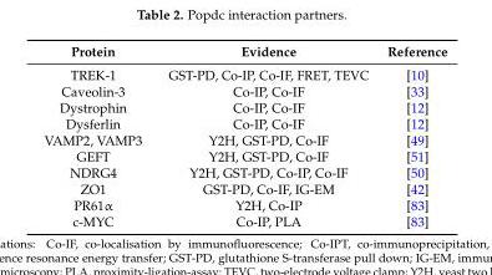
<table><thead><tr><td>Protein</td><td>Evidence</td><td>Reference</td></tr></thead><tbody><tr><td>TREK-1</td><td>GST-PD, Co-IP, Co-IF, FRET, TEVC</td><td>[10]</td></tr><tr><td>Caveolin-3</td><td>Co-IP, Co-IF</td><td>[33]</td></tr><tr><td>Dystrophin</td><td>Co-IP, Co-IF</td><td>[12]</td></tr><tr><td>Dysferlin</td><td>Co-IP, Co-IF</td><td>[12]</td></tr><tr><td>VAMP2, VAMP3</td><td>Y2H, GST-PD, Co-IF</td><td>[49]</td></tr><tr><td>GEFT</td><td>Y2H, GST-PD, Co-IF</td><td>[51]</td></tr><tr><td>NDRG4</td><td>Y2H, GST-PD, Co-IP, Co-IF</td><td>[50]</td></tr><tr><td>ZO1</td><td>GST-PD, Co-IF, IG-EM</td><td>[42]</td></tr><tr><td>PR61α</td><td>Y2H, Co-IP</td><td>[83]</td></tr><tr><td>c-MYC</td><td>Co-IP, PLA</td><td>[83]</td></tr></tbody></table>